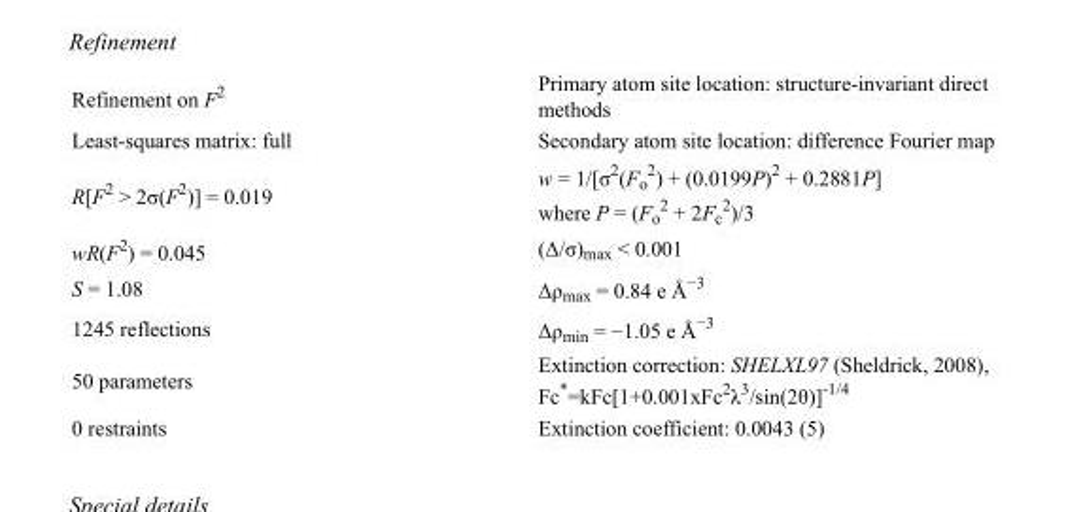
<table><tbody><tr><td>Refinement on F<sup>2</sup></td><td>Primary atom site location: structure-invariant direct methods</td></tr><tr><td>Least-squares matrix: full</td><td>Secondary atom site location: difference Fourier map</td></tr><tr><td>R[F<sup>2</sup> &gt; 2σ(F<sup>2</sup>)] = 0.019</td><td>w = 1/[σ<sup>2</sup>(F<sub>o</sub> <sup>2</sup>) + (0.0199P)<sup>2</sup> + 0.2881P] where P = (F<sub>o</sub> <sup>2</sup> + 2F<sub>c</sub> <sup>2</sup>)/3</td></tr><tr><td>wR(F<sup>2</sup>) = 0.045</td><td>(Δ/σ)<sub>max</sub> &lt; 0.001</td></tr><tr><td>S = 1.08</td><td>Δρ<sub>max</sub> = 0.84 e Å<sup>−3</sup></td></tr><tr><td>1245 reflections</td><td>Δρ<sub>min</sub> = −1.05 e Å<sup>−3</sup></td></tr><tr><td>50 parameters</td><td>Extinction correction: SHELXL97 (Sheldrick, 2008), Fc*=kFc[1+0.001xFc<sup>2</sup>λ<sup>3</sup>/sin(2θ)]<sup>-1/4</sup></td></tr><tr><td>0 restraints</td><td>Extinction coefficient: 0.0043 (5)</td></tr></tbody></table>